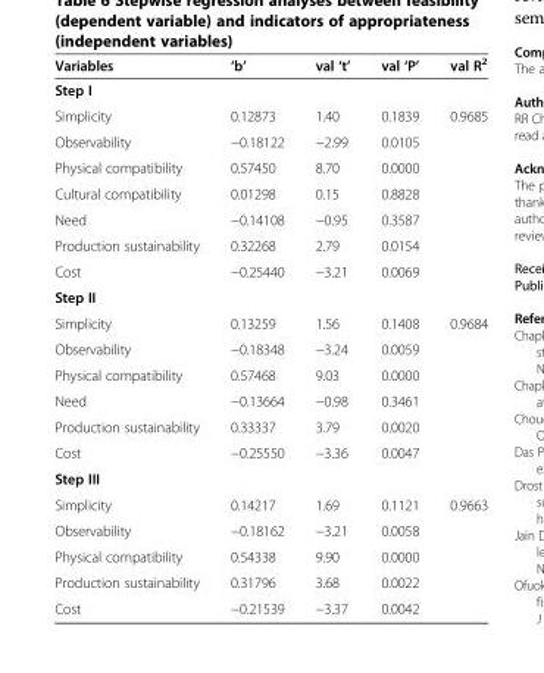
<table><thead><tr><td>Variables</td><td>‘b’</td><td>val ‘t’</td><td>val ‘P’</td><td>val R<sup>2</sup></td></tr></thead><tbody><tr><td colspan="5">Step I</td></tr><tr><td>Simplicity</td><td>0.12873</td><td>1.40</td><td>0.1839</td><td>0.9685</td></tr><tr><td>Observability</td><td>−0.18122</td><td>−2.99</td><td>0.0105</td><td></td></tr><tr><td>Physical compatibility</td><td>0.57450</td><td>8.70</td><td>0.0000</td><td></td></tr><tr><td>Cultural compatibility</td><td>0.01298</td><td>0.15</td><td>0.8828</td><td></td></tr><tr><td>Need</td><td>−0.14108</td><td>−0.95</td><td>0.3587</td><td></td></tr><tr><td>Production sustainability</td><td>0.32268</td><td>2.79</td><td>0.0154</td><td></td></tr><tr><td>Cost</td><td>−0.25440</td><td>−3.21</td><td>0.0069</td><td></td></tr><tr><td colspan="5">Step II</td></tr><tr><td>Simplicity</td><td>0.13259</td><td>1.56</td><td>0.1408</td><td>0.9684</td></tr><tr><td>Observability</td><td>−0.18348</td><td>−3.24</td><td>0.0059</td><td></td></tr><tr><td>Physical compatibility</td><td>0.57468</td><td>9.03</td><td>0.0000</td><td></td></tr><tr><td>Need</td><td>−0.13664</td><td>−0.98</td><td>0.3461</td><td></td></tr><tr><td>Production sustainability</td><td>0.33337</td><td>3.79</td><td>0.0020</td><td></td></tr><tr><td>Cost</td><td>−0.25550</td><td>−3.36</td><td>0.0047</td><td></td></tr><tr><td colspan="5">Step III</td></tr><tr><td>Simplicity</td><td>0.14217</td><td>1.69</td><td>0.1121</td><td>0.9663</td></tr><tr><td>Observability</td><td>−0.18162</td><td>−3.21</td><td>0.0058</td><td></td></tr><tr><td>Physical compatibility</td><td>0.54338</td><td>9.90</td><td>0.0000</td><td></td></tr><tr><td>Production sustainability</td><td>0.31796</td><td>3.68</td><td>0.0022</td><td></td></tr><tr><td>Cost</td><td>−0.21539</td><td>−3.37</td><td>0.0042</td><td></td></tr></tbody></table>